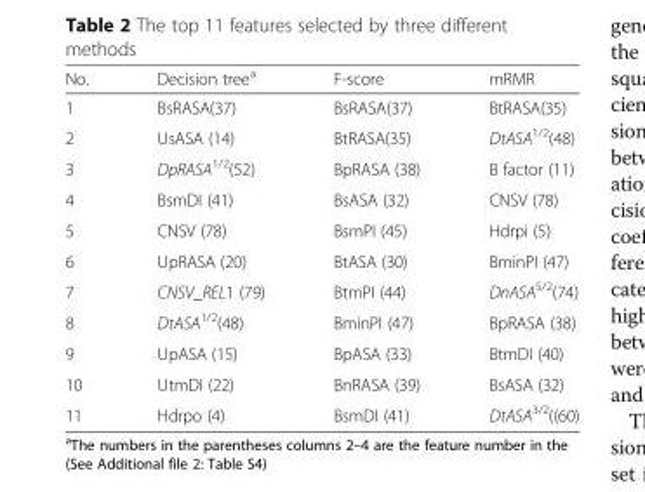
<table><thead><tr><td>No.</td><td>Decision tree<sup>a</sup></td><td>F-score</td><td>mRMR</td></tr></thead><tbody><tr><td>1</td><td>BsRASA(37)</td><td>BsRASA(37)</td><td>BtRASA(35)</td></tr><tr><td>2</td><td>UsASA (14)</td><td>BtRASA(35)</td><td>DtASA<sup>1/2</sup>(48)</td></tr><tr><td>3</td><td>DpRASA<sup>1/2</sup>(52)</td><td>BpRASA (38)</td><td>B factor (11)</td></tr><tr><td>4</td><td>BsmDI (41)</td><td>BsASA (32)</td><td>CNSV (78)</td></tr><tr><td>5</td><td>CNSV (78)</td><td>BsmPI (45)</td><td>Hdrpi (5)</td></tr><tr><td>6</td><td>UpRASA (20)</td><td>BtASA (30)</td><td>BminPI (47)</td></tr><tr><td>7</td><td>CNSV_REL1 (79)</td><td>BtmPI (44)</td><td>DnASA<sup>5/2</sup>(74)</td></tr><tr><td>8</td><td>DtASA<sup>1/2</sup>(48)</td><td>BminPI (47)</td><td>BpRASA (38)</td></tr><tr><td>9</td><td>UpASA (15)</td><td>BpASA (33)</td><td>BtmDI (40)</td></tr><tr><td>10</td><td>UtmDI (22)</td><td>BnRASA (39)</td><td>BsASA (32)</td></tr><tr><td>11</td><td>Hdrpo (4)</td><td>BsmDI (41)</td><td>DtASA<sup>3/2</sup>((60)</td></tr></tbody></table>